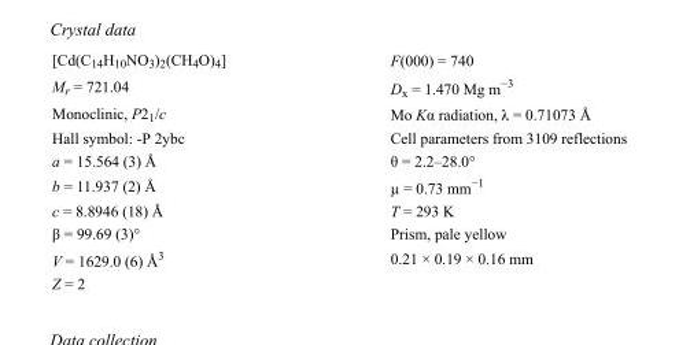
<table><tbody><tr><td>[Cd(C<sub>14</sub>H<sub>10</sub>NO<sub>3</sub>)<sub>2</sub>(CH<sub>4</sub>O)<sub>4</sub>]</td><td>F(000) = 740</td></tr><tr><td>M<sub>r</sub> = 721.04</td><td>D<sub>x</sub> = 1.470 Mg m<sup>−3</sup></td></tr><tr><td>Monoclinic, P2<sub>1</sub>/c</td><td>Mo Kα radiation, λ = 0.71073 Å</td></tr><tr><td>Hall symbol: -P 2ybc</td><td>Cell parameters from 3109 reflections</td></tr><tr><td>a = 15.564 (3) Å</td><td>θ = 2.2–28.0°</td></tr><tr><td>b = 11.937 (2) Å</td><td>µ = 0.73 mm<sup>−1</sup></td></tr><tr><td>c = 8.8946 (18) Å</td><td>T = 293 K</td></tr><tr><td>β = 99.69 (3)°</td><td>Prism, pale yellow</td></tr><tr><td>V = 1629.0 (6) Å<sup>3</sup></td><td>0.21 × 0.19 × 0.16 mm</td></tr><tr><td>Z = 2</td><td></td></tr></tbody></table>